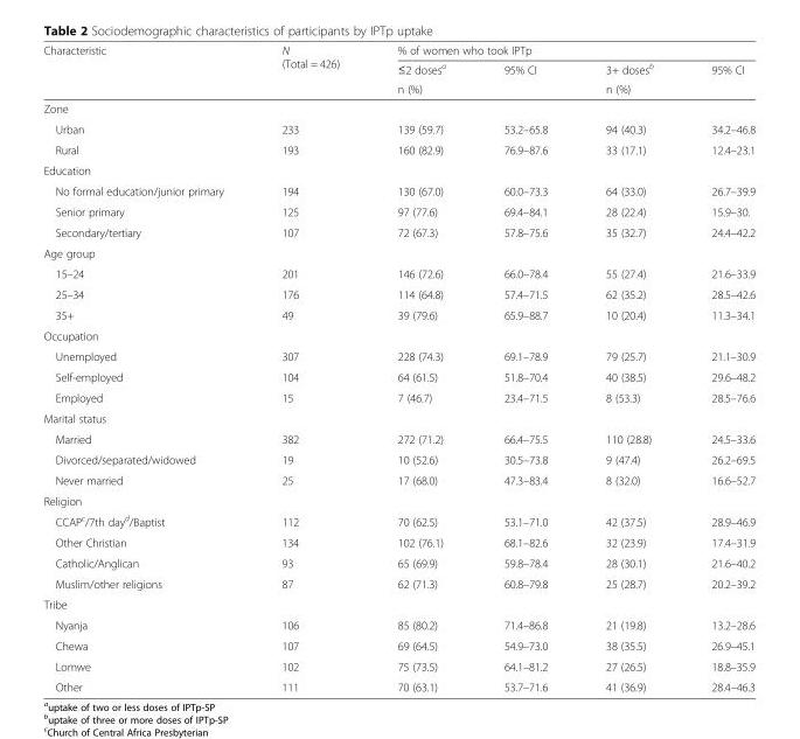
<table><thead><tr><td rowspan="3">Characteristic</td><td rowspan="3">N (Total = 426)</td><td colspan="4">% of women who took IPTp</td></tr><tr><td rowspan="2">≤2 doses<sup>a</sup> n (%)</td><td rowspan="2">95% CI</td><td rowspan="2">3+ doses<sup>b</sup> n (%)</td><td rowspan="2">95% CI</td></tr><tr></tr></thead><tbody><tr><td colspan="6">Zone</td></tr><tr><td>Urban</td><td>233</td><td>139 (59.7)</td><td>53.2–65.8</td><td>94 (40.3)</td><td>34.2–46.8</td></tr><tr><td>Rural</td><td>193</td><td>160 (82.9)</td><td>76.9–87.6</td><td>33 (17.1)</td><td>12.4–23.1</td></tr><tr><td colspan="6">Education</td></tr><tr><td>No formal education/junior primary</td><td>194</td><td>130 (67.0)</td><td>60.0–73.3</td><td>64 (33.0)</td><td>26.7–39.9</td></tr><tr><td>Senior primary</td><td>125</td><td>97 (77.6)</td><td>69.4–84.1</td><td>28 (22.4)</td><td>15.9–30.</td></tr><tr><td>Secondary/tertiary</td><td>107</td><td>72 (67.3)</td><td>57.8–75.6</td><td>35 (32.7)</td><td>24.4–42.2</td></tr><tr><td colspan="6">Age group</td></tr><tr><td>15–24</td><td>201</td><td>146 (72.6)</td><td>66.0–78.4</td><td>55 (27.4)</td><td>21.6–33.9</td></tr><tr><td>25–34</td><td>176</td><td>114 (64.8)</td><td>57.4–71.5</td><td>62 (35.2)</td><td>28.5–42.6</td></tr><tr><td>35+</td><td>49</td><td>39 (79.6)</td><td>65.9–88.7</td><td>10 (20.4)</td><td>11.3–34.1</td></tr><tr><td colspan="6">Occupation</td></tr><tr><td>Unemployed</td><td>307</td><td>228 (74.3)</td><td>69.1–78.9</td><td>79 (25.7)</td><td>21.1–30.9</td></tr><tr><td>Self-employed</td><td>104</td><td>64 (61.5)</td><td>51.8–70.4</td><td>40 (38.5)</td><td>29.6–48.2</td></tr><tr><td>Employed</td><td>15</td><td>7 (46.7)</td><td>23.4–71.5</td><td>8 (53.3)</td><td>28.5–76.6</td></tr><tr><td colspan="6">Marital status</td></tr><tr><td>Married</td><td>382</td><td>272 (71.2)</td><td>66.4–75.5</td><td>110 (28.8)</td><td>24.5–33.6</td></tr><tr><td>Divorced/separated/widowed</td><td>19</td><td>10 (52.6)</td><td>30.5–73.8</td><td>9 (47.4)</td><td>26.2–69.5</td></tr><tr><td>Never married</td><td>25</td><td>17 (68.0)</td><td>47.3–83.4</td><td>8 (32.0)</td><td>16.6–52.7</td></tr><tr><td colspan="6">Religion</td></tr><tr><td>CCAP<sup>c</sup>/7th day<sup>d</sup>/Baptist</td><td>112</td><td>70 (62.5)</td><td>53.1–71.0</td><td>42 (37.5)</td><td>28.9–46.9</td></tr><tr><td>Other Christian</td><td>134</td><td>102 (76.1)</td><td>68.1–82.6</td><td>32 (23.9)</td><td>17.4–31.9</td></tr><tr><td>Catholic/Anglican</td><td>93</td><td>65 (69.9)</td><td>59.8–78.4</td><td>28 (30.1)</td><td>21.6–40.2</td></tr><tr><td>Muslim/other religions</td><td>87</td><td>62 (71.3)</td><td>60.8–79.8</td><td>25 (28.7)</td><td>20.2–39.2</td></tr><tr><td colspan="6">Tribe</td></tr><tr><td>Nyanja</td><td>106</td><td>85 (80.2)</td><td>71.4–86.8</td><td>21 (19.8)</td><td>13.2–28.6</td></tr><tr><td>Chewa</td><td>107</td><td>69 (64.5)</td><td>54.9–73.0</td><td>38 (35.5)</td><td>26.9–45.1</td></tr><tr><td>Lomwe</td><td>102</td><td>75 (73.5)</td><td>64.1–81.2</td><td>27 (26.5)</td><td>18.8–35.9</td></tr><tr><td>Other</td><td>111</td><td>70 (63.1)</td><td>53.7–71.6</td><td>41 (36.9)</td><td>28.4–46.3</td></tr></tbody></table>